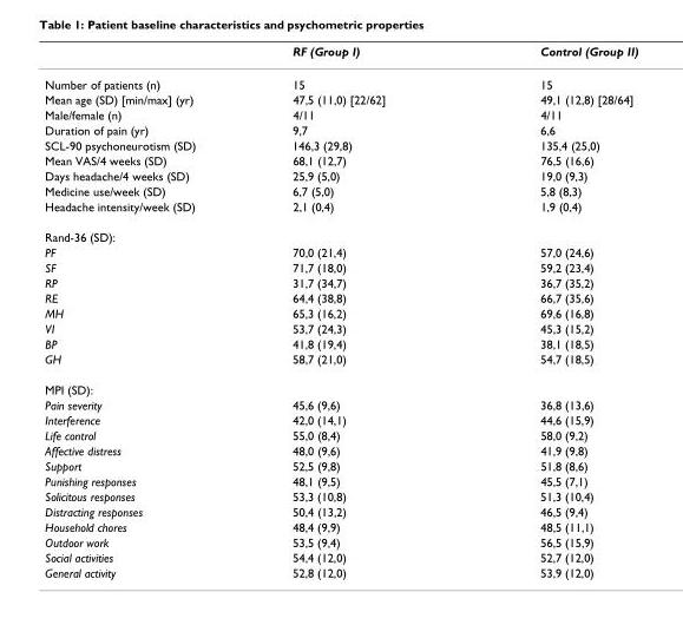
<table><thead><tr><td></td><td>RF (Group I)</td><td>Control (Group II)</td></tr></thead><tbody><tr><td>Number of patients (n)</td><td>15</td><td>15</td></tr><tr><td>Mean age (SD) [min/max] (yr)</td><td>47,5 (11,0) [22/62]</td><td>49,1 (12,8) [28/64]</td></tr><tr><td>Male/female (n)</td><td>4/11</td><td>4/11</td></tr><tr><td>Duration of pain (yr)</td><td>9,7</td><td>6,6</td></tr><tr><td>SCL-90 psychoneurotism (SD)</td><td>146,3 (29,8)</td><td>135,4 (25,0)</td></tr><tr><td>Mean VAS/4 weeks (SD)</td><td>68,1 (12,7)</td><td>76,5 (16,6)</td></tr><tr><td>Days headache/4 weeks (SD)</td><td>25,9 (5,0)</td><td>19,0 (9,3)</td></tr><tr><td>Medicine use/week (SD)</td><td>6,7 (5,0)</td><td>5,8 (8,3)</td></tr><tr><td>Headache intensity/week (SD)</td><td>2,1 (0,4)</td><td>1,9 (0,4)</td></tr><tr><td colspan="3">Rand-36 (SD):</td></tr><tr><td>PF</td><td>70,0 (21,4)</td><td>57,0 (24,6)</td></tr><tr><td>SF</td><td>71,7 (18,0)</td><td>59,2 (23,4)</td></tr><tr><td>RP</td><td>31,7 (34,7)</td><td>36,7 (35,2)</td></tr><tr><td>RE</td><td>64,4 (38,8)</td><td>66,7 (35,6)</td></tr><tr><td>MH</td><td>65,3 (16,2)</td><td>69,6 (16,8)</td></tr><tr><td>VI</td><td>53,7 (24,3)</td><td>45,3 (15,2)</td></tr><tr><td>BP</td><td>41,8 (19,4)</td><td>38,1 (18,5)</td></tr><tr><td>GH</td><td>58,7 (21,0)</td><td>54,7 (18,5)</td></tr><tr><td colspan="3">MPI (SD):</td></tr><tr><td>Pain severity</td><td>45,6 (9,6)</td><td>36,8 (13,6)</td></tr><tr><td>Interference</td><td>42,0 (14,1)</td><td>44,6 (15,9)</td></tr><tr><td>Life control</td><td>55,0 (8,4)</td><td>58,0 (9,2)</td></tr><tr><td>Affective distress</td><td>48,0 (9,6)</td><td>41,9 (9,8)</td></tr><tr><td>Support</td><td>52,5 (9,8)</td><td>51,8 (8,6)</td></tr><tr><td>Punishing responses</td><td>48,1 (9,5)</td><td>45,5 (7,1)</td></tr><tr><td>Solicitous responses</td><td>53,3 (10,8)</td><td>51,3 (10,4)</td></tr><tr><td>Distracting responses</td><td>50,4 (13,2)</td><td>46,5 (9,4)</td></tr><tr><td>Household chores</td><td>48,4 (9,9)</td><td>48,5 (11,1)</td></tr><tr><td>Outdoor work</td><td>53,5 (9,4)</td><td>56,5 (15,9)</td></tr><tr><td>Social activities</td><td>54,4 (12,0)</td><td>52,7 (12,0)</td></tr><tr><td>General activity</td><td>52,8 (12,0)</td><td>53,9 (12,0)</td></tr></tbody></table>